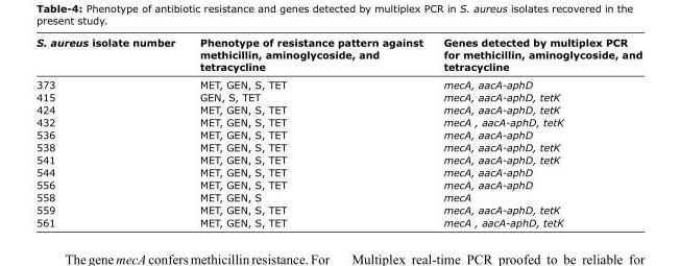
<table><thead><tr><td>S. aureus isolate number</td><td>Phenotype of resistance pattern against methicillin, aminoglycoside, and tetracycline</td><td>Genes detected by multiplex PCR for methicillin, aminoglycoside, and tetracycline</td></tr></thead><tbody><tr><td>373</td><td>MET, GEN, S, TET</td><td>mecA, aacA‑aphD</td></tr><tr><td>415</td><td>GEN, S, TET</td><td>mecA, aacA‑aphD, tetK</td></tr><tr><td>424</td><td>MET, GEN, S, TET</td><td>mecA, aacA‑aphD, tetK</td></tr><tr><td>432</td><td>MET, GEN, S, TET</td><td>mecA , aacA‑aphD, tetK</td></tr><tr><td>536</td><td>MET, GEN, S, TET</td><td>mecA, aacA‑aphD</td></tr><tr><td>538</td><td>MET, GEN, S, TET</td><td>mecA, aacA‑aphD, tetK</td></tr><tr><td>541</td><td>MET, GEN, S, TET</td><td>mecA, aacA‑aphD, tetK</td></tr><tr><td>544</td><td>MET, GEN, S, TET</td><td>mecA, aacA‑aphD</td></tr><tr><td>556</td><td>MET, GEN, S, TET</td><td>mecA, aacA‑aphD</td></tr><tr><td>558</td><td>MET, GEN, S</td><td>mecA</td></tr><tr><td>559</td><td>MET, GEN, S, TET</td><td>mecA, aacA‑aphD, tetK</td></tr><tr><td>561</td><td>MET, GEN, S, TET</td><td>mecA , aacA‑aphD, tetK</td></tr></tbody></table>